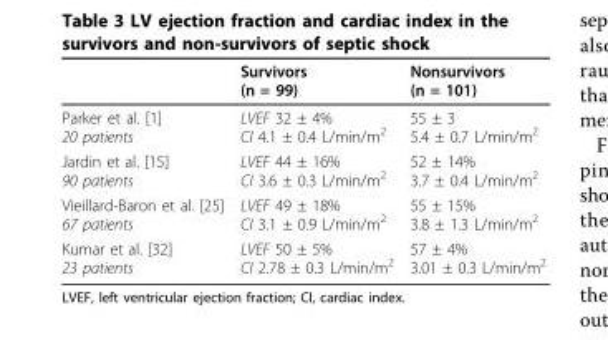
<table><thead><tr><td></td><td>Survivors (n = 99)</td><td>Nonsurvivors (n = 101)</td></tr></thead><tbody><tr><td>Parker et al. [1] 20 patients</td><td>LVEF 32 ± 4% CI 4.1 ± 0.4 L/min/m<sup>2</sup></td><td>55 ± 3 5.4 ± 0.7 L/min/m<sup>2</sup></td></tr><tr><td>Jardin et al. [15] 90 patients</td><td>LVEF 44 ± 16% CI 3.6 ± 0.3 L/min/m<sup>2</sup></td><td>52 ± 14% 3.7 ± 0.4 L/min/m<sup>2</sup></td></tr><tr><td>Vieillard-Baron et al. [25] 67 patients</td><td>LVEF 49 ± 18% CI 3.1 ± 0.9 L/min/m<sup>2</sup></td><td>55 ± 15% 3.8 ± 1.3 L/min/m<sup>2</sup></td></tr><tr><td>Kumar et al. [32] 23 patients</td><td>LVEF 50 ± 5% CI 2.78 ± 0.3 L/min/m<sup>2</sup></td><td>57 ± 4% 3.01 ± 0.3 L/min/m<sup>2</sup></td></tr></tbody></table>